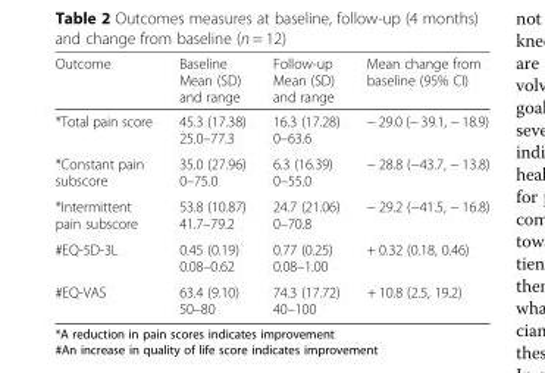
<table><thead><tr><td>Outcome</td><td>Baseline Mean (SD) and range</td><td>Follow-up Mean (SD) and range</td><td>Mean change from baseline (95% CI)</td></tr></thead><tbody><tr><td>*Total pain score</td><td>45.3 (17.38) 25.0–77.3</td><td>16.3 (17.28) 0–63.6</td><td>− 29.0 (− 39.1, − 18.9)</td></tr><tr><td>*Constant pain subscore</td><td>35.0 (27.96) 0–75.0</td><td>6.3 (16.39) 0–55.0</td><td>− 28.8 (−43.7, − 13.8)</td></tr><tr><td>*Intermittent pain subscore</td><td>53.8 (10.87) 41.7–79.2</td><td>24.7 (21.06) 0–70.8</td><td>− 29.2 (−41.5, − 16.8)</td></tr><tr><td>#EQ-5D-3L</td><td>0.45 (0.19) 0.08–0.62</td><td>0.77 (0.25) 0.08–1.00</td><td>+ 0.32 (0.18, 0.46)</td></tr><tr><td>#EQ-VAS</td><td>63.4 (9.10) 50–80</td><td>74.3 (17.72) 40–100</td><td>+ 10.8 (2.5, 19.2)</td></tr></tbody></table>